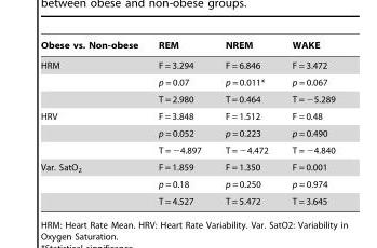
<table><thead><tr><td>Obese vs. Non-obese</td><td>REM</td><td>NREM</td><td>WAKE</td></tr></thead><tbody><tr><td rowspan="3">HRM</td><td>F = 3.294</td><td>F = 6.846</td><td>F = 3.472</td></tr><tr><td>p = 0.07</td><td>p = 0.011*</td><td>p = 0.067</td></tr><tr><td>T = 2.980</td><td>T = 0.464</td><td>T = −5.289</td></tr><tr><td rowspan="3">HRV</td><td>F = 3.848</td><td>F = 1.512</td><td>F = 0.48</td></tr><tr><td>p = 0.052</td><td>p = 0.223</td><td>p = 0.490</td></tr><tr><td>T = −4.897</td><td>T = −4.472</td><td>T = −4.840</td></tr><tr><td rowspan="3">Var. SatO<sub>2</sub></td><td>F = 1.859</td><td>F = 1.350</td><td>F = 0.001</td></tr><tr><td>p = 0.18</td><td>p = 0.250</td><td>p = 0.974</td></tr><tr><td>T = 4.527</td><td>T = 5.472</td><td>T = 3.645</td></tr></tbody></table>